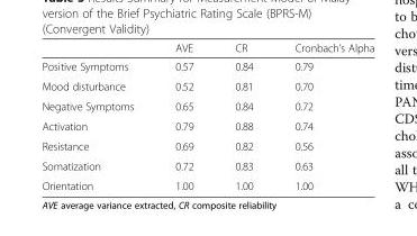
<table><thead><tr><td></td><td>AVE</td><td>CR</td><td>Cronbach’s Alpha</td></tr></thead><tbody><tr><td>Positive Symptoms</td><td>0.57</td><td>0.84</td><td>0.79</td></tr><tr><td>Mood disturbance</td><td>0.52</td><td>0.81</td><td>0.70</td></tr><tr><td>Negative Symptoms</td><td>0.65</td><td>0.84</td><td>0.72</td></tr><tr><td>Activation</td><td>0.79</td><td>0.88</td><td>0.74</td></tr><tr><td>Resistance</td><td>0.69</td><td>0.82</td><td>0.56</td></tr><tr><td>Somatization</td><td>0.72</td><td>0.83</td><td>0.63</td></tr><tr><td>Orientation</td><td>1.00</td><td>1.00</td><td>1.00</td></tr></tbody></table>